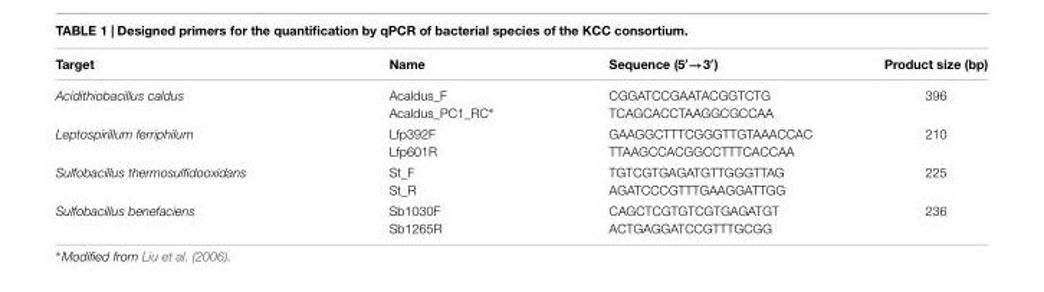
<table><thead><tr><td>Target</td><td>Name</td><td>Sequence (5′→3′)</td><td>Product size (bp)</td></tr></thead><tbody><tr><td>Acidithiobacillus caldus</td><td>Acaldus_F Acaldus_PC1_RC∗</td><td>CGGATCCGAATACGGTCTG TCAGCACCTAAGGCGCCAA</td><td>396</td></tr><tr><td>Leptospirillum ferriphilum</td><td>Lfp392F Lfp601R</td><td>GAAGGCTTTCGGGTTGTAAACCAC TTAAGCCACGGCCTTTCACCAA</td><td>210</td></tr><tr><td>Sulfobacillus thermosulfidooxidans</td><td>St_F St_R</td><td>TGTCGTGAGATGTTGGGTTAG AGATCCCGTTTGAAGGATTGG</td><td>225</td></tr><tr><td>Sulfobacillus benefaciens</td><td>Sb1030F Sb1265R</td><td>CAGCTCGTGTCGTGAGATGT ACTGAGGATCCGTTTGCGG</td><td>236</td></tr></tbody></table>